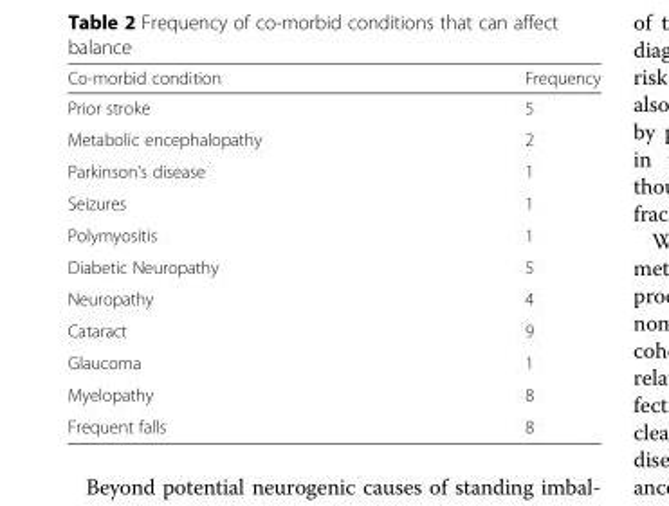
<table><thead><tr><td>Co-morbid condition</td><td>Frequency</td></tr></thead><tbody><tr><td>Prior stroke</td><td>5</td></tr><tr><td>Metabolic encephalopathy</td><td>2</td></tr><tr><td>Parkinson&#x27;s disease</td><td>1</td></tr><tr><td>Seizures</td><td>1</td></tr><tr><td>Polymyositis</td><td>1</td></tr><tr><td>Diabetic Neuropathy</td><td>5</td></tr><tr><td>Neuropathy</td><td>4</td></tr><tr><td>Cataract</td><td>9</td></tr><tr><td>Glaucoma</td><td>1</td></tr><tr><td>Myelopathy</td><td>8</td></tr><tr><td>Frequent falls</td><td>8</td></tr></tbody></table>